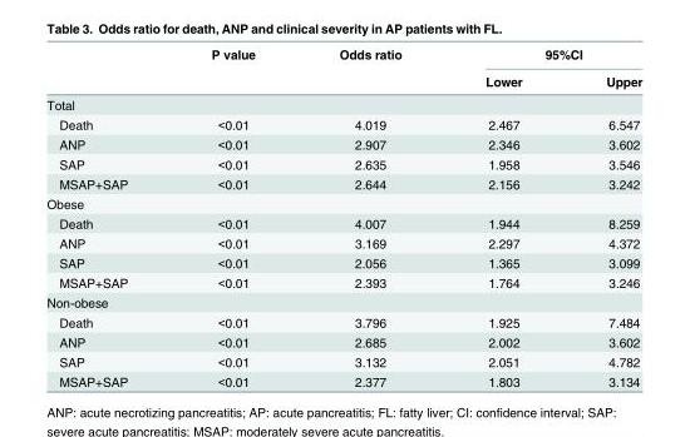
<table><thead><tr><td rowspan="2"></td><td rowspan="2">P value</td><td rowspan="2">Odds ratio</td><td colspan="2">95%CI</td></tr><tr><td>Lower</td><td>Upper</td></tr></thead><tbody><tr><td colspan="5">Total</td></tr><tr><td>Death</td><td>&lt;0.01</td><td>4.019</td><td>2.467</td><td>6.547</td></tr><tr><td>ANP</td><td>&lt;0.01</td><td>2.907</td><td>2.346</td><td>3.602</td></tr><tr><td>SAP</td><td>&lt;0.01</td><td>2.635</td><td>1.958</td><td>3.546</td></tr><tr><td>MSAP+SAP</td><td>&lt;0.01</td><td>2.644</td><td>2.156</td><td>3.242</td></tr><tr><td colspan="5">Obese</td></tr><tr><td>Death</td><td>&lt;0.01</td><td>4.007</td><td>1.944</td><td>8.259</td></tr><tr><td>ANP</td><td>&lt;0.01</td><td>3.169</td><td>2.297</td><td>4.372</td></tr><tr><td>SAP</td><td>&lt;0.01</td><td>2.056</td><td>1.365</td><td>3.099</td></tr><tr><td>MSAP+SAP</td><td>&lt;0.01</td><td>2.393</td><td>1.764</td><td>3.246</td></tr><tr><td colspan="5">Non-obese</td></tr><tr><td>Death</td><td>&lt;0.01</td><td>3.796</td><td>1.925</td><td>7.484</td></tr><tr><td>ANP</td><td>&lt;0.01</td><td>2.685</td><td>2.002</td><td>3.602</td></tr><tr><td>SAP</td><td>&lt;0.01</td><td>3.132</td><td>2.051</td><td>4.782</td></tr><tr><td>MSAP+SAP</td><td>&lt;0.01</td><td>2.377</td><td>1.803</td><td>3.134</td></tr></tbody></table>